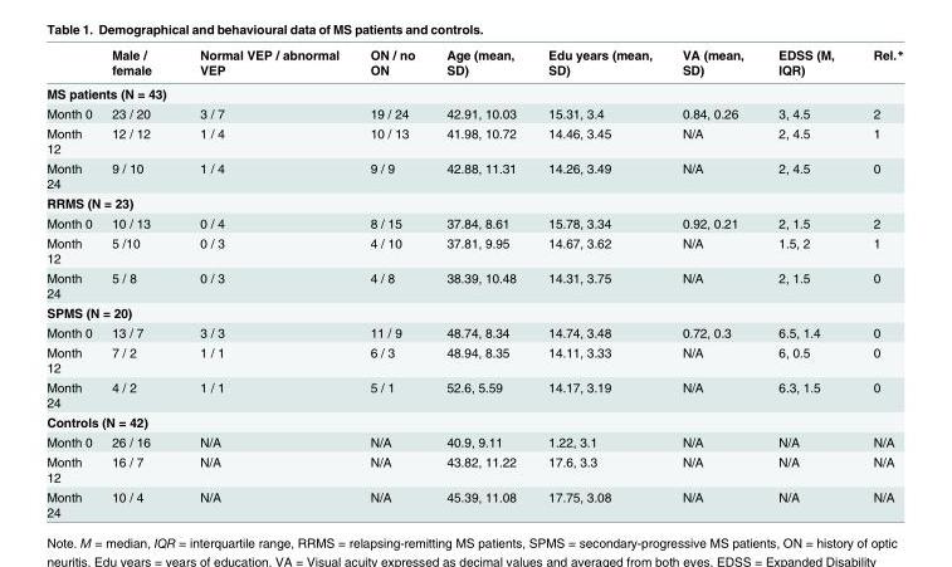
<table><thead><tr><td></td><td>Male / female</td><td>Normal VEP / abnormal VEP</td><td>ON / no ON</td><td>Age (mean, SD)</td><td>Edu years (mean, SD)</td><td>VA (mean, SD)</td><td>EDSS (M, IQR)</td><td>Rel.*</td></tr></thead><tbody><tr><td colspan="9">MS patients (N = 43)</td></tr><tr><td>Month 0</td><td>23 / 20</td><td>3 / 7</td><td>19 / 24</td><td>42.91, 10.03</td><td>15.31, 3.4</td><td>0.84, 0.26</td><td>3, 4.5</td><td>2</td></tr><tr><td>Month 12</td><td>12 / 12</td><td>1 / 4</td><td>10 / 13</td><td>41.98, 10.72</td><td>14.46, 3.45</td><td>N/A</td><td>2, 4.5</td><td>1</td></tr><tr><td>Month 24</td><td>9 / 10</td><td>1 / 4</td><td>9 / 9</td><td>42.88, 11.31</td><td>14.26, 3.49</td><td>N/A</td><td>2, 4.5</td><td>0</td></tr><tr><td colspan="9">RRMS (N = 23)</td></tr><tr><td>Month 0</td><td>10 / 13</td><td>0 / 4</td><td>8 / 15</td><td>37.84, 8.61</td><td>15.78, 3.34</td><td>0.92, 0.21</td><td>2, 1.5</td><td>2</td></tr><tr><td>Month 12</td><td>5 /10</td><td>0 / 3</td><td>4 / 10</td><td>37.81, 9.95</td><td>14.67, 3.62</td><td>N/A</td><td>1.5, 2</td><td>1</td></tr><tr><td>Month 24</td><td>5 / 8</td><td>0 / 3</td><td>4 / 8</td><td>38.39, 10.48</td><td>14.31, 3.75</td><td>N/A</td><td>2, 1.5</td><td>0</td></tr><tr><td colspan="9">SPMS (N = 20)</td></tr><tr><td>Month 0</td><td>13 / 7</td><td>3 / 3</td><td>11 / 9</td><td>48.74, 8.34</td><td>14.74, 3.48</td><td>0.72, 0.3</td><td>6.5, 1.4</td><td>0</td></tr><tr><td>Month 12</td><td>7 / 2</td><td>1 / 1</td><td>6 / 3</td><td>48.94, 8.35</td><td>14.11, 3.33</td><td>N/A</td><td>6, 0.5</td><td>0</td></tr><tr><td>Month 24</td><td>4 / 2</td><td>1 / 1</td><td>5 / 1</td><td>52.6, 5.59</td><td>14.17, 3.19</td><td>N/A</td><td>6.3, 1.5</td><td>0</td></tr><tr><td colspan="9">Controls (N = 42)</td></tr><tr><td>Month 0</td><td>26 / 16</td><td>N/A</td><td>N/A</td><td>40.9, 9.11</td><td>1.22, 3.1</td><td>N/A</td><td>N/A</td><td>N/A</td></tr><tr><td>Month 12</td><td>16 / 7</td><td>N/A</td><td>N/A</td><td>43.82, 11.22</td><td>17.6, 3.3</td><td>N/A</td><td>N/A</td><td>N/A</td></tr><tr><td>Month 24</td><td>10 / 4</td><td>N/A</td><td>N/A</td><td>45.39, 11.08</td><td>17.75, 3.08</td><td>N/A</td><td>N/A</td><td>N/A</td></tr></tbody></table>